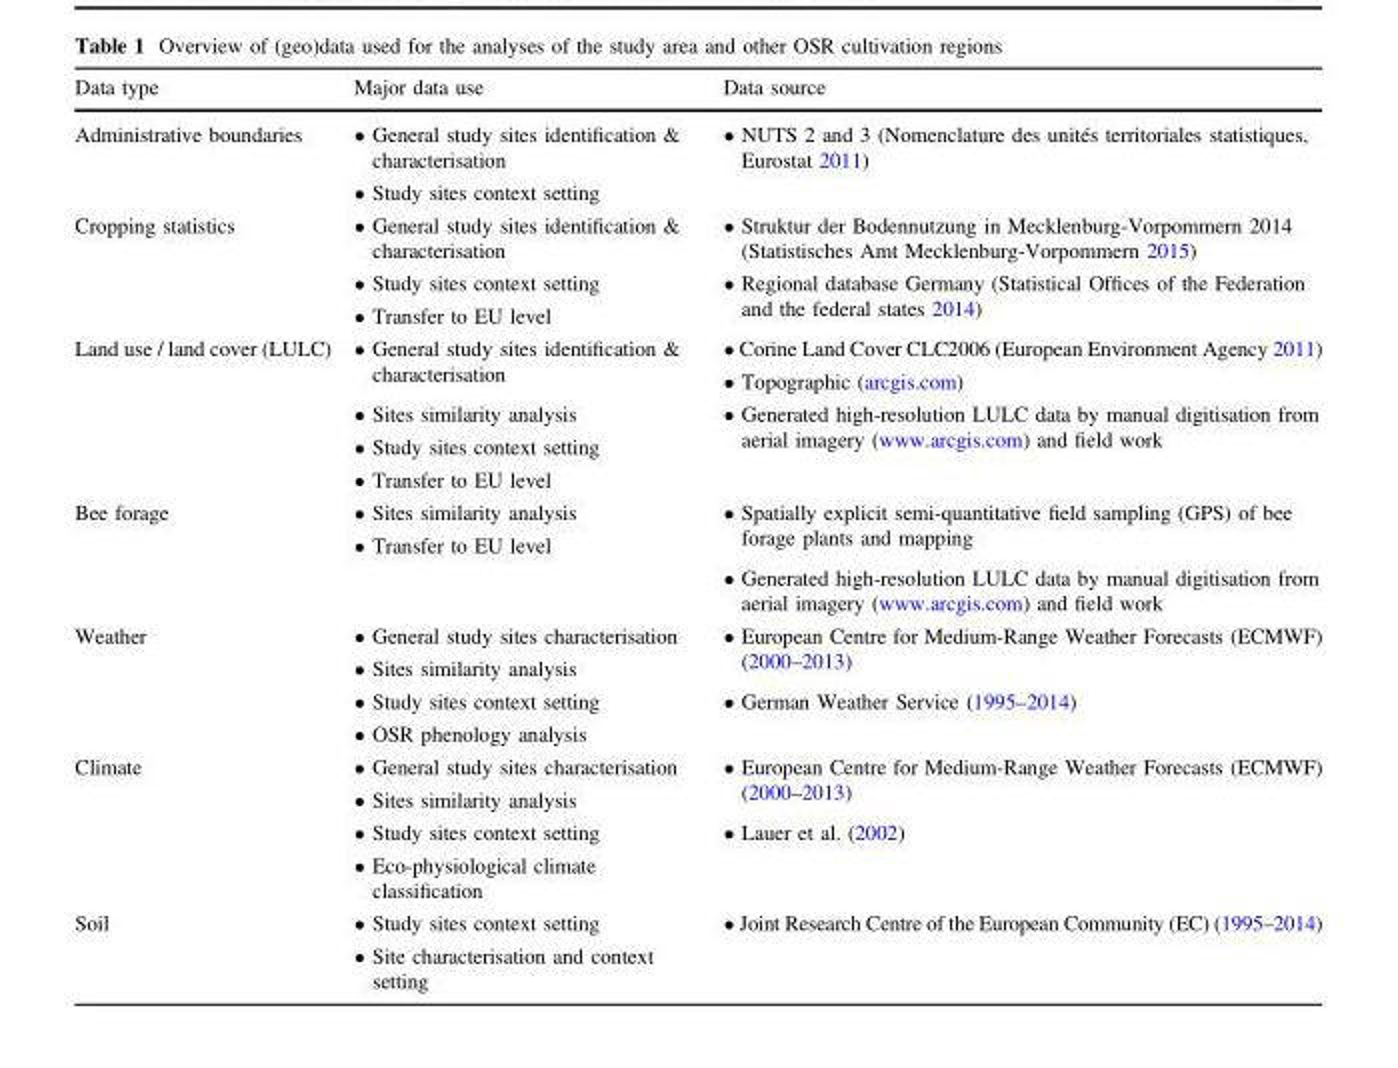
<table><thead><tr><td>Data type</td><td>Major data use</td><td>Data source</td></tr></thead><tbody><tr><td rowspan="2">Administrative boundaries</td><td>• General study sites identification &amp; characterisation</td><td>• NUTS 2 and 3 (Nomenclature des unités territoriales statistiques, Eurostat 2011)</td></tr><tr><td>• Study sites context setting</td><td></td></tr><tr><td rowspan="3">Cropping statistics</td><td>• General study sites identification &amp; characterisation</td><td>• Struktur der Bodennutzung in Mecklenburg-Vorpommern 2014 (Statistisches Amt Mecklenburg-Vorpommern 2015)</td></tr><tr><td>• Study sites context setting</td><td rowspan="2">• Regional database Germany (Statistical Offices of the Federation and the federal states 2014)</td></tr><tr><td>• Transfer to EU level</td></tr><tr><td rowspan="5">Land use / land cover (LULC)</td><td rowspan="2">• General study sites identification &amp; characterisation</td><td>• Corine Land Cover CLC2006 (European Environment Agency 2011)</td></tr><tr><td>• Topographic (arcgis.com)</td></tr><tr><td>• Sites similarity analysis</td><td rowspan="2">• Generated high-resolution LULC data by manual digitisation from aerial imagery (www.arcgis.com) and field work</td></tr><tr><td>• Study sites context setting</td></tr><tr><td>• Transfer to EU level</td><td></td></tr><tr><td rowspan="3">Bee forage</td><td>• Sites similarity analysis</td><td rowspan="2">• Spatially explicit semi-quantitative field sampling (GPS) of bee forage plants and mapping</td></tr><tr><td>• Transfer to EU level</td></tr><tr><td></td><td>• Generated high-resolution LULC data by manual digitisation from aerial imagery (www.arcgis.com) and field work</td></tr><tr><td rowspan="4">Weather</td><td>• General study sites characterisation</td><td rowspan="2">• European Centre for Medium-Range Weather Forecasts (ECMWF) (2000–2013)</td></tr><tr><td>• Sites similarity analysis</td></tr><tr><td>• Study sites context setting</td><td>• German Weather Service (1995–2014)</td></tr><tr><td>• OSR phenology analysis</td><td></td></tr><tr><td rowspan="4">Climate</td><td>• General study sites characterisation</td><td rowspan="2">• European Centre for Medium-Range Weather Forecasts (ECMWF) (2000–2013)</td></tr><tr><td>• Sites similarity analysis</td></tr><tr><td>• Study sites context setting</td><td>• Lauer et al. (2002)</td></tr><tr><td>• Eco-physiological climate classification</td><td></td></tr><tr><td rowspan="2">Soil</td><td>• Study sites context setting</td><td>• Joint Research Centre of the European Community (EC) (1995–2014)</td></tr><tr><td>• Site characterisation and context setting</td><td></td></tr></tbody></table>